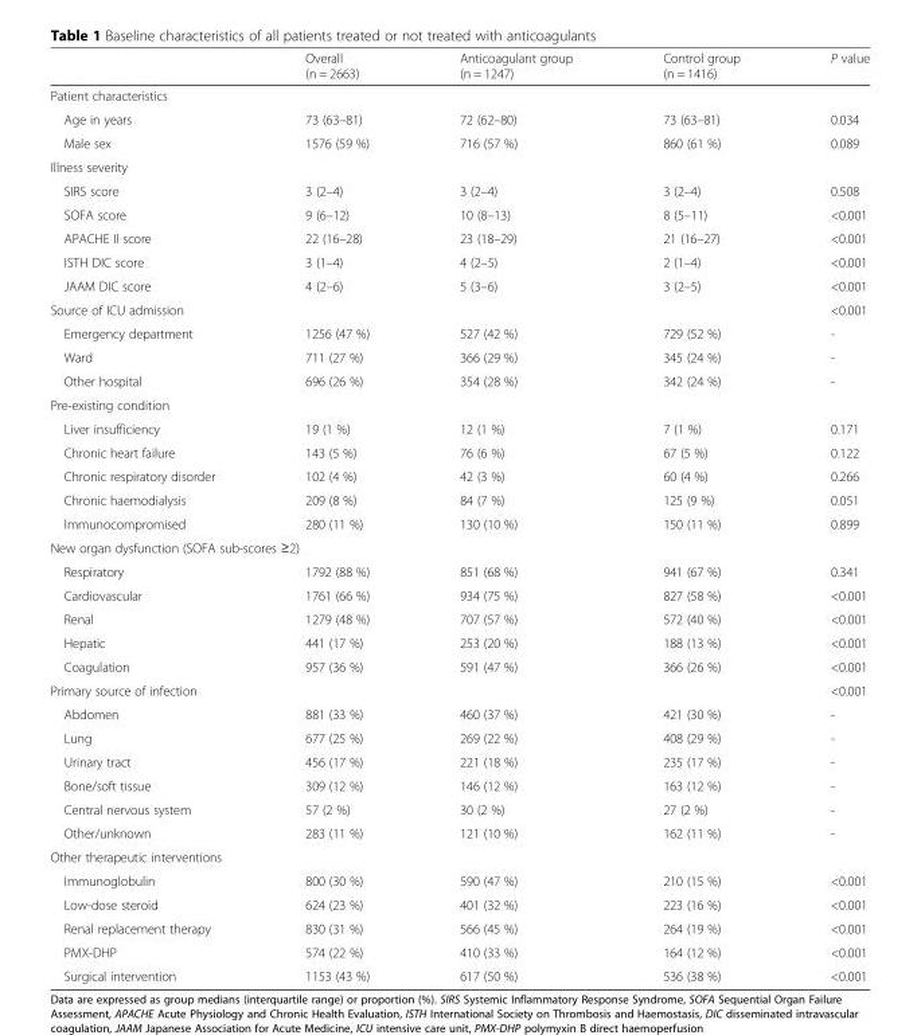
<table><thead><tr><td></td><td>Overall (n = 2663)</td><td>Anticoagulant group (n = 1247)</td><td>Control group (n = 1416)</td><td>P value</td></tr></thead><tbody><tr><td colspan="5">Patient characteristics</td></tr><tr><td>Age in years</td><td>73 (63–81)</td><td>72 (62–80)</td><td>73 (63–81)</td><td>0.034</td></tr><tr><td>Male sex</td><td>1576 (59 %)</td><td>716 (57 %)</td><td>860 (61 %)</td><td>0.089</td></tr><tr><td colspan="5">Illness severity</td></tr><tr><td>SIRS score</td><td>3 (2–4)</td><td>3 (2–4)</td><td>3 (2–4)</td><td>0.508</td></tr><tr><td>SOFA score</td><td>9 (6–12)</td><td>10 (8–13)</td><td>8 (5–11)</td><td>&lt;0.001</td></tr><tr><td>APACHE II score</td><td>22 (16–28)</td><td>23 (18–29)</td><td>21 (16–27)</td><td>&lt;0.001</td></tr><tr><td>ISTH DIC score</td><td>3 (1–4)</td><td>4 (2–5)</td><td>2 (1–4)</td><td>&lt;0.001</td></tr><tr><td>JAAM DIC score</td><td>4 (2–6)</td><td>5 (3–6)</td><td>3 (2–5)</td><td>&lt;0.001</td></tr><tr><td>Source of ICU admission</td><td></td><td></td><td></td><td>&lt;0.001</td></tr><tr><td>Emergency department</td><td>1256 (47 %)</td><td>527 (42 %)</td><td>729 (52 %)</td><td>-</td></tr><tr><td>Ward</td><td>711 (27 %)</td><td>366 (29 %)</td><td>345 (24 %)</td><td>-</td></tr><tr><td>Other hospital</td><td>696 (26 %)</td><td>354 (28 %)</td><td>342 (24 %)</td><td>-</td></tr><tr><td colspan="5">Pre-existing condition</td></tr><tr><td>Liver insufficiency</td><td>19 (1 %)</td><td>12 (1 %)</td><td>7 (1 %)</td><td>0.171</td></tr><tr><td>Chronic heart failure</td><td>143 (5 %)</td><td>76 (6 %)</td><td>67 (5 %)</td><td>0.122</td></tr><tr><td>Chronic respiratory disorder</td><td>102 (4 %)</td><td>42 (3 %)</td><td>60 (4 %)</td><td>0.266</td></tr><tr><td>Chronic haemodialysis</td><td>209 (8 %)</td><td>84 (7 %)</td><td>125 (9 %)</td><td>0.051</td></tr><tr><td>Immunocompromised</td><td>280 (11 %)</td><td>130 (10 %)</td><td>150 (11 %)</td><td>0.899</td></tr><tr><td colspan="5">New organ dysfunction (SOFA sub-scores ≥2)</td></tr><tr><td>Respiratory</td><td>1792 (88 %)</td><td>851 (68 %)</td><td>941 (67 %)</td><td>0.341</td></tr><tr><td>Cardiovascular</td><td>1761 (66 %)</td><td>934 (75 %)</td><td>827 (58 %)</td><td>&lt;0.001</td></tr><tr><td>Renal</td><td>1279 (48 %)</td><td>707 (57 %)</td><td>572 (40 %)</td><td>&lt;0.001</td></tr><tr><td>Hepatic</td><td>441 (17 %)</td><td>253 (20 %)</td><td>188 (13 %)</td><td>&lt;0.001</td></tr><tr><td>Coagulation</td><td>957 (36 %)</td><td>591 (47 %)</td><td>366 (26 %)</td><td>&lt;0.001</td></tr><tr><td>Primary source of infection</td><td></td><td></td><td></td><td>&lt;0.001</td></tr><tr><td>Abdomen</td><td>881 (33 %)</td><td>460 (37 %)</td><td>421 (30 %)</td><td>-</td></tr><tr><td>Lung</td><td>677 (25 %)</td><td>269 (22 %)</td><td>408 (29 %)</td><td>-</td></tr><tr><td>Urinary tract</td><td>456 (17 %)</td><td>221 (18 %)</td><td>235 (17 %)</td><td>-</td></tr><tr><td>Bone/soft tissue</td><td>309 (12 %)</td><td>146 (12 %)</td><td>163 (12 %)</td><td>-</td></tr><tr><td>Central nervous system</td><td>57 (2 %)</td><td>30 (2 %)</td><td>27 (2 %)</td><td>-</td></tr><tr><td>Other/unknown</td><td>283 (11 %)</td><td>121 (10 %)</td><td>162 (11 %)</td><td>-</td></tr><tr><td colspan="5">Other therapeutic interventions</td></tr><tr><td>Immunoglobulin</td><td>800 (30 %)</td><td>590 (47 %)</td><td>210 (15 %)</td><td>&lt;0.001</td></tr><tr><td>Low-dose steroid</td><td>624 (23 %)</td><td>401 (32 %)</td><td>223 (16 %)</td><td>&lt;0.001</td></tr><tr><td>Renal replacement therapy</td><td>830 (31 %)</td><td>566 (45 %)</td><td>264 (19 %)</td><td>&lt;0.001</td></tr><tr><td>PMX-DHP</td><td>574 (22 %)</td><td>410 (33 %)</td><td>164 (12 %)</td><td>&lt;0.001</td></tr><tr><td>Surgical intervention</td><td>1153 (43 %)</td><td>617 (50 %)</td><td>536 (38 %)</td><td>&lt;0.001</td></tr></tbody></table>